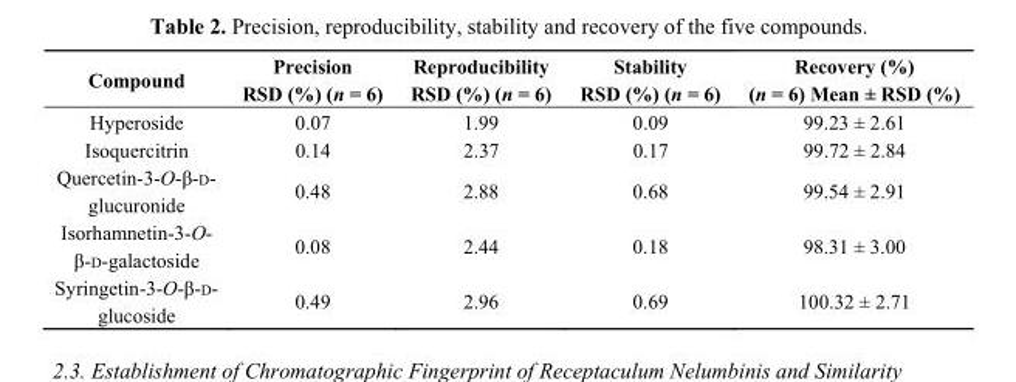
<table><thead><tr><td>Compound</td><td>Precision RSD (%) (n = 6)</td><td>Reproducibility RSD (%) (n = 6)</td><td>Stability RSD (%) (n = 6)</td><td>Recovery (%) (n = 6) Mean ± RSD (%)</td></tr></thead><tbody><tr><td>Hyperoside</td><td>0.07</td><td>1.99</td><td>0.09</td><td>99.23 ± 2.61</td></tr><tr><td>Isoquercitrin</td><td>0.14</td><td>2.37</td><td>0.17</td><td>99.72 ± 2.84</td></tr><tr><td>Quercetin-3-O-β-D- glucuronide</td><td>0.48</td><td>2.88</td><td>0.68</td><td>99.54 ± 2.91</td></tr><tr><td>Isorhamnetin-3-O- β-D-galactoside</td><td>0.08</td><td>2.44</td><td>0.18</td><td>98.31 ± 3.00</td></tr><tr><td>Syringetin-3-O-β-D- glucoside</td><td>0.49</td><td>2.96</td><td>0.69</td><td>100.32 ± 2.71</td></tr></tbody></table>